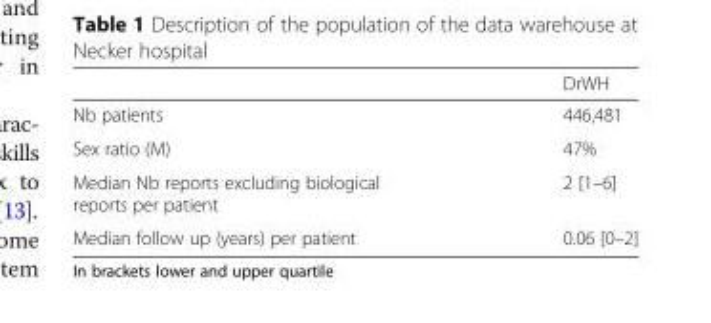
<table><thead><tr><td></td><td>DrWH</td></tr></thead><tbody><tr><td>Nb patients</td><td>446,481</td></tr><tr><td>Sex ratio (M)</td><td>47%</td></tr><tr><td>Median Nb reports excluding biological reports per patient</td><td>2 [1–6]</td></tr><tr><td>Median follow up (years) per patient</td><td>0.06 [0–2]</td></tr></tbody></table>